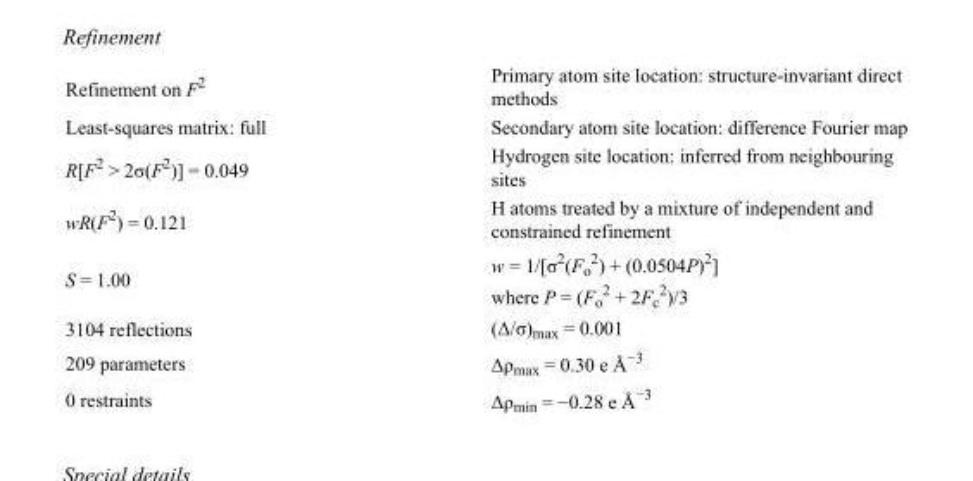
<table><tbody><tr><td>Refinement on F<sup>2</sup></td><td>Primary atom site location: structure-invariant direct methods</td></tr><tr><td>Least-squares matrix: full</td><td>Secondary atom site location: difference Fourier map</td></tr><tr><td>R[F<sup>2</sup> &gt; 2σ(F<sup>2</sup>)] = 0.049</td><td>Hydrogen site location: inferred from neighbouring sites</td></tr><tr><td>wR(F<sup>2</sup>) = 0.121</td><td>H atoms treated by a mixture of independent and constrained refinement</td></tr><tr><td>S = 1.00</td><td>w = 1/[σ<sup>2</sup>(F<sub>o</sub> <sup>2</sup>) + (0.0504P)<sup>2</sup>] where P = (F<sub>o</sub> <sup>2</sup> + 2F<sub>c</sub> <sup>2</sup>)/3</td></tr><tr><td>3104 reflections</td><td>(Δ/σ)<sub>max</sub> = 0.001</td></tr><tr><td>209 parameters</td><td>Δρ<sub>max</sub> = 0.30 e Å<sup>−3</sup></td></tr><tr><td>0 restraints</td><td>Δρ<sub>min</sub> = −0.28 e Å<sup>−3</sup></td></tr></tbody></table>